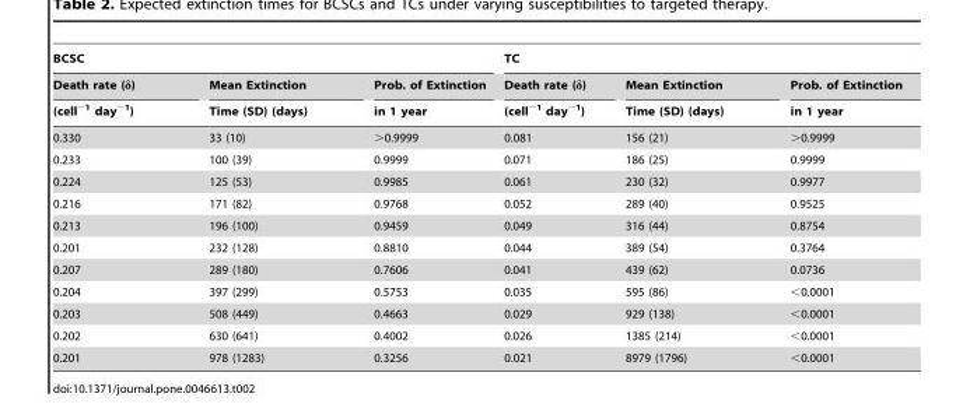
<table><thead><tr><td colspan="3">BCSC</td><td colspan="3">TC</td></tr><tr><td rowspan="2">Death rate (δ) (cell<sup>−1</sup> day<sup>−1</sup>)</td><td rowspan="2">Mean Extinction Time (SD) (days)</td><td rowspan="2">Prob. of Extinction in 1 year</td><td rowspan="2">Death rate (δ) (cell<sup>−1</sup> day<sup>−1</sup>)</td><td rowspan="2">Mean Extinction Time (SD) (days)</td><td rowspan="2">Prob. of Extinction in 1 year</td></tr><tr></tr></thead><tbody><tr><td>0.330</td><td>33 (10)</td><td>&gt;0.9999</td><td>0.081</td><td>156 (21)</td><td>&gt;0.9999</td></tr><tr><td>0.233</td><td>100 (39)</td><td>0.9999</td><td>0.071</td><td>186 (25)</td><td>0.9999</td></tr><tr><td>0.224</td><td>125 (53)</td><td>0.9985</td><td>0.061</td><td>230 (32)</td><td>0.9977</td></tr><tr><td>0.216</td><td>171 (82)</td><td>0.9768</td><td>0.052</td><td>289 (40)</td><td>0.9525</td></tr><tr><td>0.213</td><td>196 (100)</td><td>0.9459</td><td>0.049</td><td>316 (44)</td><td>0.8754</td></tr><tr><td>0.201</td><td>232 (128)</td><td>0.8810</td><td>0.044</td><td>389 (54)</td><td>0.3764</td></tr><tr><td>0.207</td><td>289 (180)</td><td>0.7606</td><td>0.041</td><td>439 (62)</td><td>0.0736</td></tr><tr><td>0.204</td><td>397 (299)</td><td>0.5753</td><td>0.035</td><td>595 (86)</td><td>&lt;0.0001</td></tr><tr><td>0.203</td><td>508 (449)</td><td>0.4663</td><td>0.029</td><td>929 (138)</td><td>&lt;0.0001</td></tr><tr><td>0.202</td><td>630 (641)</td><td>0.4002</td><td>0.026</td><td>1385 (214)</td><td>&lt;0.0001</td></tr><tr><td>0.201</td><td>978 (1283)</td><td>0.3256</td><td>0.021</td><td>8979 (1796)</td><td>&lt;0.0001</td></tr></tbody></table>